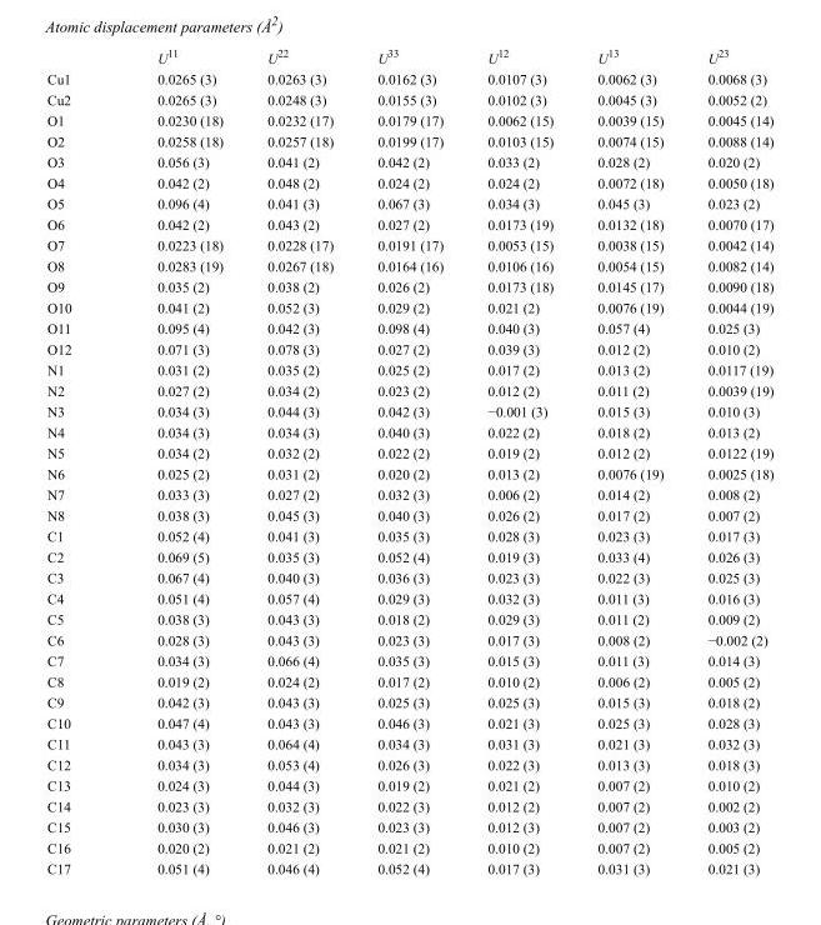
<table><thead><tr><td></td><td>U<sup>11</sup></td><td>U<sup>22</sup></td><td>U<sup>33</sup></td><td>U<sup>12</sup></td><td>U<sup>13</sup></td><td>U<sup>23</sup></td></tr></thead><tbody><tr><td>Cu1</td><td>0.0265 (3)</td><td>0.0263 (3)</td><td>0.0162 (3)</td><td>0.0107 (3)</td><td>0.0062 (3)</td><td>0.0068 (3)</td></tr><tr><td>Cu2</td><td>0.0265 (3)</td><td>0.0248 (3)</td><td>0.0155 (3)</td><td>0.0102 (3)</td><td>0.0045 (3)</td><td>0.0052 (2)</td></tr><tr><td>O1</td><td>0.0230 (18)</td><td>0.0232 (17)</td><td>0.0179 (17)</td><td>0.0062 (15)</td><td>0.0039 (15)</td><td>0.0045 (14)</td></tr><tr><td>O2</td><td>0.0258 (18)</td><td>0.0257 (18)</td><td>0.0199 (17)</td><td>0.0103 (15)</td><td>0.0074 (15)</td><td>0.0088 (14)</td></tr><tr><td>O3</td><td>0.056 (3)</td><td>0.041 (2)</td><td>0.042 (2)</td><td>0.033 (2)</td><td>0.028 (2)</td><td>0.020 (2)</td></tr><tr><td>O4</td><td>0.042 (2)</td><td>0.048 (2)</td><td>0.024 (2)</td><td>0.024 (2)</td><td>0.0072 (18)</td><td>0.0050 (18)</td></tr><tr><td>O5</td><td>0.096 (4)</td><td>0.041 (3)</td><td>0.067 (3)</td><td>0.034 (3)</td><td>0.045 (3)</td><td>0.023 (2)</td></tr><tr><td>O6</td><td>0.042 (2)</td><td>0.043 (2)</td><td>0.027 (2)</td><td>0.0173 (19)</td><td>0.0132 (18)</td><td>0.0070 (17)</td></tr><tr><td>O7</td><td>0.0223 (18)</td><td>0.0228 (17)</td><td>0.0191 (17)</td><td>0.0053 (15)</td><td>0.0038 (15)</td><td>0.0042 (14)</td></tr><tr><td>O8</td><td>0.0283 (19)</td><td>0.0267 (18)</td><td>0.0164 (16)</td><td>0.0106 (16)</td><td>0.0054 (15)</td><td>0.0082 (14)</td></tr><tr><td>O9</td><td>0.035 (2)</td><td>0.038 (2)</td><td>0.026 (2)</td><td>0.0173 (18)</td><td>0.0145 (17)</td><td>0.0090 (18)</td></tr><tr><td>O10</td><td>0.041 (2)</td><td>0.052 (3)</td><td>0.029 (2)</td><td>0.021 (2)</td><td>0.0076 (19)</td><td>0.0044 (19)</td></tr><tr><td>O11</td><td>0.095 (4)</td><td>0.042 (3)</td><td>0.098 (4)</td><td>0.040 (3)</td><td>0.057 (4)</td><td>0.025 (3)</td></tr><tr><td>O12</td><td>0.071 (3)</td><td>0.078 (3)</td><td>0.027 (2)</td><td>0.039 (3)</td><td>0.012 (2)</td><td>0.010 (2)</td></tr><tr><td>N1</td><td>0.031 (2)</td><td>0.035 (2)</td><td>0.025 (2)</td><td>0.017 (2)</td><td>0.013 (2)</td><td>0.0117 (19)</td></tr><tr><td>N2</td><td>0.027 (2)</td><td>0.034 (2)</td><td>0.023 (2)</td><td>0.012 (2)</td><td>0.011 (2)</td><td>0.0039 (19)</td></tr><tr><td>N3</td><td>0.034 (3)</td><td>0.044 (3)</td><td>0.042 (3)</td><td>−0.001 (3)</td><td>0.015 (3)</td><td>0.010 (3)</td></tr><tr><td>N4</td><td>0.034 (3)</td><td>0.034 (3)</td><td>0.040 (3)</td><td>0.022 (2)</td><td>0.018 (2)</td><td>0.013 (2)</td></tr><tr><td>N5</td><td>0.034 (2)</td><td>0.032 (2)</td><td>0.022 (2)</td><td>0.019 (2)</td><td>0.012 (2)</td><td>0.0122 (19)</td></tr><tr><td>N6</td><td>0.025 (2)</td><td>0.031 (2)</td><td>0.020 (2)</td><td>0.013 (2)</td><td>0.0076 (19)</td><td>0.0025 (18)</td></tr><tr><td>N7</td><td>0.033 (3)</td><td>0.027 (2)</td><td>0.032 (3)</td><td>0.006 (2)</td><td>0.014 (2)</td><td>0.008 (2)</td></tr><tr><td>N8</td><td>0.038 (3)</td><td>0.045 (3)</td><td>0.040 (3)</td><td>0.026 (2)</td><td>0.017 (2)</td><td>0.007 (2)</td></tr><tr><td>C1</td><td>0.052 (4)</td><td>0.041 (3)</td><td>0.035 (3)</td><td>0.028 (3)</td><td>0.023 (3)</td><td>0.017 (3)</td></tr><tr><td>C2</td><td>0.069 (5)</td><td>0.035 (3)</td><td>0.052 (4)</td><td>0.019 (3)</td><td>0.033 (4)</td><td>0.026 (3)</td></tr><tr><td>C3</td><td>0.067 (4)</td><td>0.040 (3)</td><td>0.036 (3)</td><td>0.023 (3)</td><td>0.022 (3)</td><td>0.025 (3)</td></tr><tr><td>C4</td><td>0.051 (4)</td><td>0.057 (4)</td><td>0.029 (3)</td><td>0.032 (3)</td><td>0.011 (3)</td><td>0.016 (3)</td></tr><tr><td>C5</td><td>0.038 (3)</td><td>0.043 (3)</td><td>0.018 (2)</td><td>0.029 (3)</td><td>0.011 (2)</td><td>0.009 (2)</td></tr><tr><td>C6</td><td>0.028 (3)</td><td>0.043 (3)</td><td>0.023 (3)</td><td>0.017 (3)</td><td>0.008 (2)</td><td>−0.002 (2)</td></tr><tr><td>C7</td><td>0.034 (3)</td><td>0.066 (4)</td><td>0.035 (3)</td><td>0.015 (3)</td><td>0.011 (3)</td><td>0.014 (3)</td></tr><tr><td>C8</td><td>0.019 (2)</td><td>0.024 (2)</td><td>0.017 (2)</td><td>0.010 (2)</td><td>0.006 (2)</td><td>0.005 (2)</td></tr><tr><td>C9</td><td>0.042 (3)</td><td>0.043 (3)</td><td>0.025 (3)</td><td>0.025 (3)</td><td>0.015 (3)</td><td>0.018 (2)</td></tr><tr><td>C10</td><td>0.047 (4)</td><td>0.043 (3)</td><td>0.046 (3)</td><td>0.021 (3)</td><td>0.025 (3)</td><td>0.028 (3)</td></tr><tr><td>C11</td><td>0.043 (3)</td><td>0.064 (4)</td><td>0.034 (3)</td><td>0.031 (3)</td><td>0.021 (3)</td><td>0.032 (3)</td></tr><tr><td>C12</td><td>0.034 (3)</td><td>0.053 (4)</td><td>0.026 (3)</td><td>0.022 (3)</td><td>0.013 (3)</td><td>0.018 (3)</td></tr><tr><td>C13</td><td>0.024 (3)</td><td>0.044 (3)</td><td>0.019 (2)</td><td>0.021 (2)</td><td>0.007 (2)</td><td>0.010 (2)</td></tr><tr><td>C14</td><td>0.023 (3)</td><td>0.032 (3)</td><td>0.022 (3)</td><td>0.012 (2)</td><td>0.007 (2)</td><td>0.002 (2)</td></tr><tr><td>C15</td><td>0.030 (3)</td><td>0.046 (3)</td><td>0.023 (3)</td><td>0.012 (3)</td><td>0.007 (2)</td><td>0.003 (2)</td></tr><tr><td>C16</td><td>0.020 (2)</td><td>0.021 (2)</td><td>0.021 (2)</td><td>0.010 (2)</td><td>0.007 (2)</td><td>0.005 (2)</td></tr><tr><td>C17</td><td>0.051 (4)</td><td>0.046 (4)</td><td>0.052 (4)</td><td>0.017 (3)</td><td>0.031 (3)</td><td>0.021 (3)</td></tr></tbody></table>